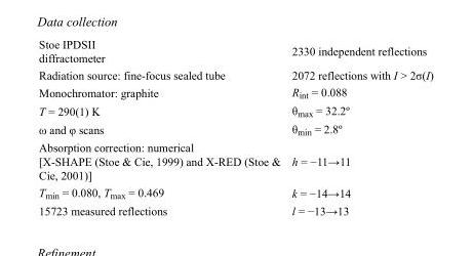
<table><tbody><tr><td>Stoe IPDSII diffractometer</td><td>2330 independent reflections</td></tr><tr><td>Radiation source: fine-focus sealed tube</td><td>2072 reflections with I &gt; 2σ(I)</td></tr><tr><td>Monochromator: graphite</td><td>R<sub>int</sub> = 0.088</td></tr><tr><td>T = 290(1) K</td><td>θ<sub>max</sub> = 32.2º</td></tr><tr><td>ω and φ scans</td><td>θ<sub>min</sub> = 2.8º</td></tr><tr><td>Absorption correction: numerical [X-SHAPE (Stoe &amp; Cie, 1999) and X-RED (Stoe &amp; Cie, 2001)]</td><td>h = −11→11</td></tr><tr><td>T<sub>min</sub> = 0.080, T<sub>max</sub> = 0.469</td><td>k = −14→14</td></tr><tr><td>15723 measured reflections</td><td>l = −13→13</td></tr></tbody></table>